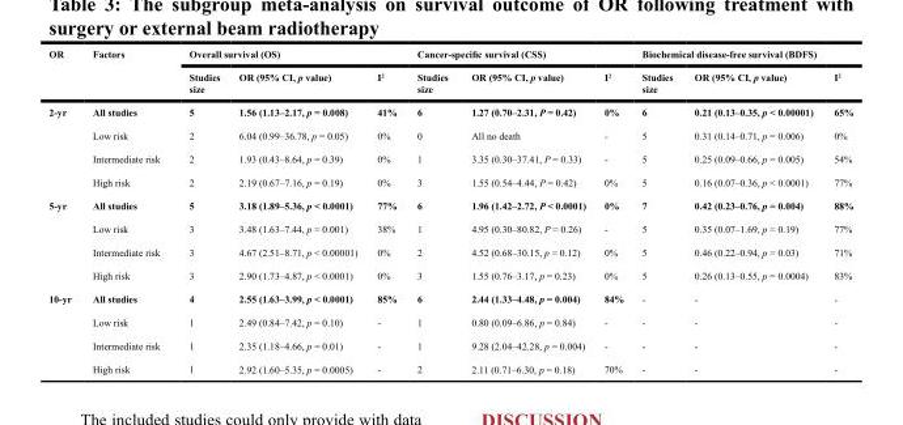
<table><thead><tr><td rowspan="2">OR</td><td rowspan="2">Factors</td><td colspan="3">Overall survival (OS)</td><td colspan="3">Cancer-specific survival (CSS)</td><td colspan="3">Biochemical disease-free survival (BDFS)</td></tr><tr><td>Studies size</td><td>OR (95% CI, p value)</td><td>I<sup>2</sup></td><td>Studies size</td><td>OR (95% CI, p value)</td><td>I<sup>2</sup></td><td>Studies size</td><td>OR (95% CI, p value)</td><td>I<sup>2</sup></td></tr></thead><tbody><tr><td rowspan="4">2-yr</td><td>All studies</td><td>5</td><td>1.56 (1.13–2.17, p = 0.008)</td><td>41%</td><td>6</td><td>1.27 (0.70–2.31, P = 0.42)</td><td>0%</td><td>6</td><td>0.21 (0.13–0.35, p &lt; 0.00001)</td><td>65%</td></tr><tr><td>Low risk</td><td>2</td><td>6.04 (0.99–36.78, p = 0.05)</td><td>0%</td><td>0</td><td>All no death</td><td>-</td><td>5</td><td>0.31 (0.14–0.71, p = 0.006)</td><td>0%</td></tr><tr><td>Intermediate risk</td><td>2</td><td>1.93 (0.43–8.64, p = 0.39)</td><td>0%</td><td>1</td><td>3.35 (0.30–37.41, P = 0.33)</td><td>-</td><td>5</td><td>0.25 (0.09–0.66, p = 0.005)</td><td>54%</td></tr><tr><td>High risk</td><td>2</td><td>2.19 (0.67–7.16, p = 0.19)</td><td>0%</td><td>3</td><td>1.55 (0.54–4.44, P = 0.42)</td><td>0%</td><td>5</td><td>0.16 (0.07–0.36, p &lt; 0.0001)</td><td>77%</td></tr><tr><td rowspan="4">5-yr</td><td>All studies</td><td>5</td><td>3.18 (1.89–5.36, p &lt; 0.0001)</td><td>77%</td><td>6</td><td>1.96 (1.42–2.72, P &lt; 0.0001)</td><td>0%</td><td>7</td><td>0.42 (0.23–0.76, p = 0.004)</td><td>88%</td></tr><tr><td>Low risk</td><td>3</td><td>3.48 (1.63–7.44, p = 0.001)</td><td>38%</td><td>1</td><td>4.95 (0.30–80.82, P = 0.26)</td><td>-</td><td>5</td><td>0.35 (0.07–1.69, p = 0.19)</td><td>77%</td></tr><tr><td>Intermediate risk</td><td>3</td><td>4.67 (2.51–8.71, p &lt; 0.00001)</td><td>0%</td><td>2</td><td>4.52 (0.68–30.15, p = 0.12)</td><td>0%</td><td>5</td><td>0.46 (0.22–0.94, p = 0.03)</td><td>71%</td></tr><tr><td>High risk</td><td>3</td><td>2.90 (1.73–4.87, p &lt; 0.0001)</td><td>0%</td><td>3</td><td>1.55 (0.76–3.17, p = 0.23)</td><td>0%</td><td>5</td><td>0.26 (0.13–0.55, p = 0.0004)</td><td>83%</td></tr><tr><td rowspan="4">10-yr</td><td>All studies</td><td>4</td><td>2.55 (1.63–3.99, p &lt; 0.0001)</td><td>85%</td><td>6</td><td>2.44 (1.33–4.48, p = 0.004)</td><td>84%</td><td>-</td><td>-</td><td>-</td></tr><tr><td>Low risk</td><td>1</td><td>2.49 (0.84–7.42, p = 0.10)</td><td>-</td><td>1</td><td>0.80 (0.09–6.86, p = 0.84)</td><td>-</td><td>-</td><td>-</td><td>-</td></tr><tr><td>Intermediate risk</td><td>1</td><td>2.35 (1.18–4.66, p = 0.01)</td><td>-</td><td>1</td><td>9.28 (2.04–42.28, p = 0.004)</td><td>-</td><td>-</td><td>-</td><td>-</td></tr><tr><td>High risk</td><td>1</td><td>2.92 (1.60–5.35, p = 0.0005)</td><td>-</td><td>2</td><td>2.11 (0.71–6.30, p = 0.18)</td><td>70%</td><td>-</td><td>-</td><td>-</td></tr></tbody></table>